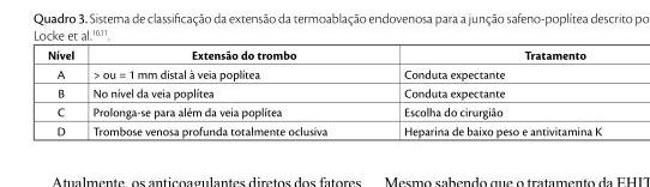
<table><thead><tr><td>Nível</td><td>Extensão do trombo</td><td>Tratamento</td></tr></thead><tbody><tr><td>A</td><td>&gt; ou = 1 mm distal à veia poplítea</td><td>Conduta expectante</td></tr><tr><td>B</td><td>No nível da veia poplítea</td><td>Conduta expectante</td></tr><tr><td>C</td><td>Prolonga-se para além da veia poplítea</td><td>Escolha do cirurgião</td></tr><tr><td>D</td><td>Trombose venosa profunda totalmente oclusiva</td><td>Heparina de baixo peso e antivitamina K</td></tr></tbody></table>